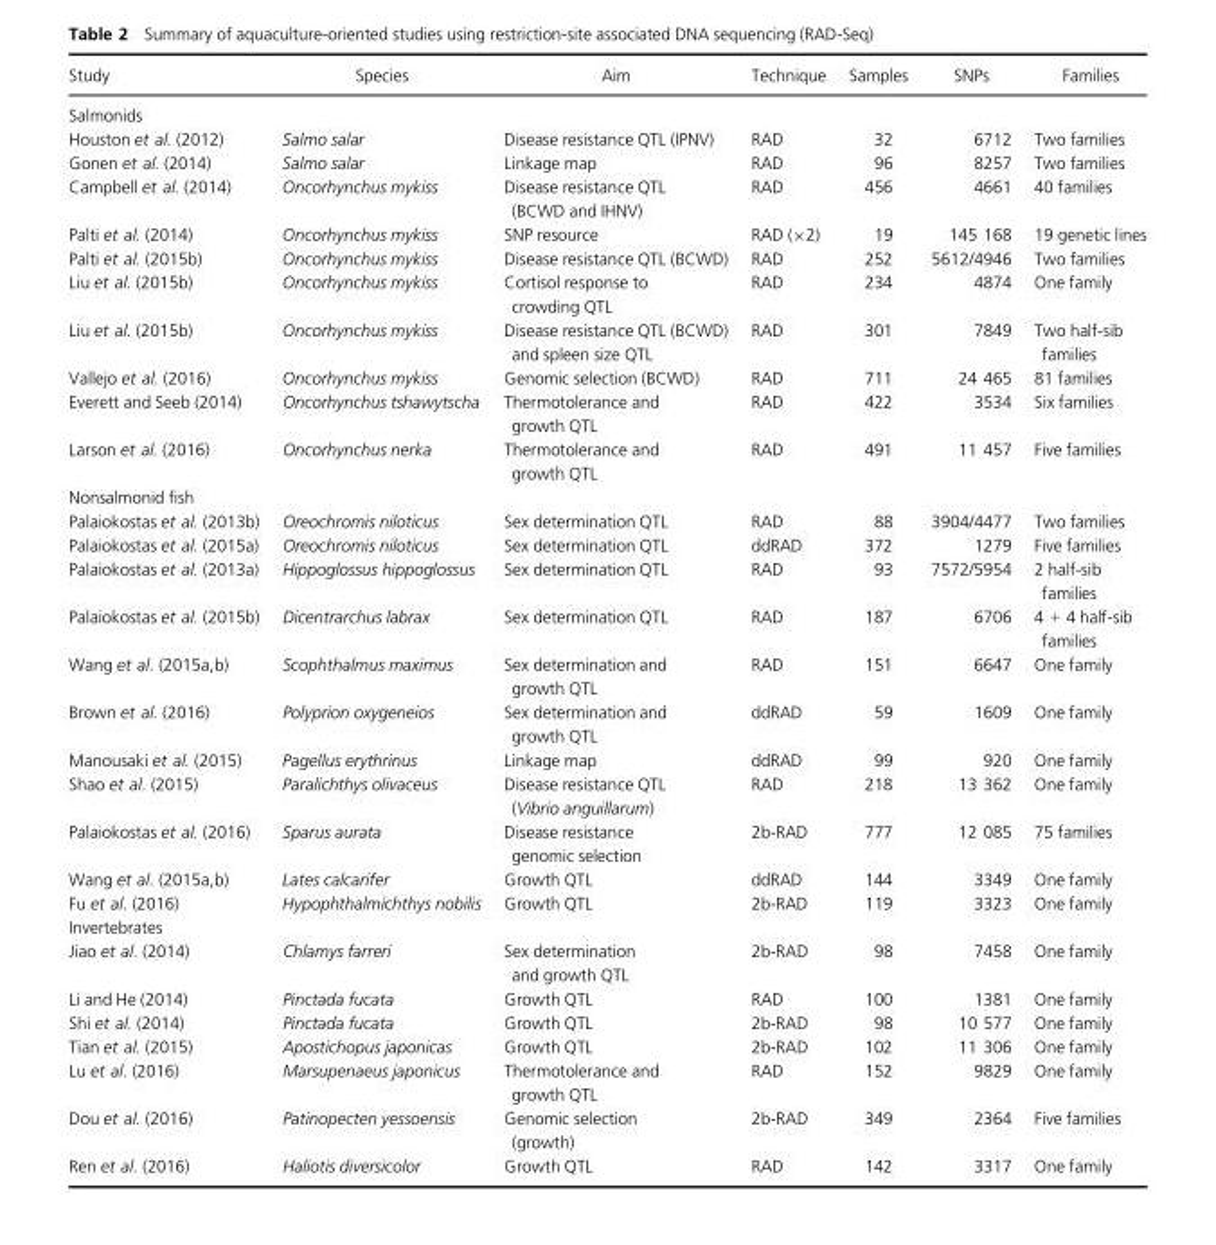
<table><thead><tr><td>Study</td><td>Species</td><td>Aim</td><td>Technique</td><td>Samples</td><td>SNPs</td><td>Families</td></tr></thead><tbody><tr><td colspan="7">Salmonids</td></tr><tr><td>Houston et al. (2012)</td><td>Salmo salar</td><td>Disease resistance QTL (IPNV)</td><td>RAD</td><td>32</td><td>6712</td><td>Two families</td></tr><tr><td>Gonen et al. (2014)</td><td>Salmo salar</td><td>Linkage map</td><td>RAD</td><td>96</td><td>8257</td><td>Two families</td></tr><tr><td>Campbell et al. (2014)</td><td>Oncorhynchus mykiss</td><td>Disease resistance QTL (BCWD and IHNV)</td><td>RAD</td><td>456</td><td>4661</td><td>40 families</td></tr><tr><td>Palti et al. (2014)</td><td>Oncorhynchus mykiss</td><td>SNP resource</td><td>RAD (×2)</td><td>19</td><td>145 168</td><td>19 genetic lines</td></tr><tr><td>Palti et al. (2015b)</td><td>Oncorhynchus mykiss</td><td>Disease resistance QTL (BCWD)</td><td>RAD</td><td>252</td><td>5612/4946</td><td>Two families</td></tr><tr><td>Liu et al. (2015b)</td><td>Oncorhynchus mykiss</td><td>Cortisol response to crowding QTL</td><td>RAD</td><td>234</td><td>4874</td><td>One family</td></tr><tr><td>Liu et al. (2015b)</td><td>Oncorhynchus mykiss</td><td>Disease resistance QTL (BCWD) and spleen size QTL</td><td>RAD</td><td>301</td><td>7849</td><td>Two half-sib families</td></tr><tr><td>Vallejo et al. (2016)</td><td>Oncorhynchus mykiss</td><td>Genomic selection (BCWD)</td><td>RAD</td><td>711</td><td>24 465</td><td>81 families</td></tr><tr><td>Everett and Seeb (2014)</td><td>Oncorhynchus tshawytscha</td><td>Thermotolerance and growth QTL</td><td>RAD</td><td>422</td><td>3534</td><td>Six families</td></tr><tr><td>Larson et al. (2016)</td><td>Oncorhynchus nerka</td><td>Thermotolerance and growth QTL</td><td>RAD</td><td>491</td><td>11 457</td><td>Five families</td></tr><tr><td colspan="7">Nonsalmonid fish</td></tr><tr><td>Palaiokostas et al. (2013b)</td><td>Oreochromis niloticus</td><td>Sex determination QTL</td><td>RAD</td><td>88</td><td>3904/4477</td><td>Two families</td></tr><tr><td>Palaiokostas et al. (2015a)</td><td>Oreochromis niloticus</td><td>Sex determination QTL</td><td>ddRAD</td><td>372</td><td>1279</td><td>Five families</td></tr><tr><td>Palaiokostas et al. (2013a)</td><td>Hippoglossus hippoglossus</td><td>Sex determination QTL</td><td>RAD</td><td>93</td><td>7572/5954</td><td>2 half-sib families</td></tr><tr><td>Palaiokostas et al. (2015b)</td><td>Dicentrarchus labrax</td><td>Sex determination QTL</td><td>RAD</td><td>187</td><td>6706</td><td>4 + 4 half-sib families</td></tr><tr><td>Wang et al. (2015a,b)</td><td>Scophthalmus maximus</td><td>Sex determination and growth QTL</td><td>RAD</td><td>151</td><td>6647</td><td>One family</td></tr><tr><td>Brown et al. (2016)</td><td>Polyprion oxygeneios</td><td>Sex determination and growth QTL</td><td>ddRAD</td><td>59</td><td>1609</td><td>One family</td></tr><tr><td>Manousaki et al. (2015)</td><td>Pagellus erythrinus</td><td>Linkage map</td><td>ddRAD</td><td>99</td><td>920</td><td>One family</td></tr><tr><td>Shao et al. (2015)</td><td>Paralichthys olivaceus</td><td>Disease resistance QTL (Vibrio anguillarum)</td><td>RAD</td><td>218</td><td>13 362</td><td>One family</td></tr><tr><td>Palaiokostas et al. (2016)</td><td>Sparus aurata</td><td>Disease resistance genomic selection</td><td>2b-RAD</td><td>777</td><td>12 085</td><td>75 families</td></tr><tr><td>Wang et al. (2015a,b)</td><td>Lates calcarifer</td><td>Growth QTL</td><td>ddRAD</td><td>144</td><td>3349</td><td>One family</td></tr><tr><td>Fu et al. (2016)</td><td>Hypophthalmichthys nobilis</td><td>Growth QTL</td><td>2b-RAD</td><td>119</td><td>3323</td><td>One family</td></tr><tr><td colspan="7">Invertebrates</td></tr><tr><td>Jiao et al. (2014)</td><td>Chlamys farreri</td><td>Sex determination and growth QTL</td><td>2b-RAD</td><td>98</td><td>7458</td><td>One family</td></tr><tr><td>Li and He (2014)</td><td>Pinctada fucata</td><td>Growth QTL</td><td>RAD</td><td>100</td><td>1381</td><td>One family</td></tr><tr><td>Shi et al. (2014)</td><td>Pinctada fucata</td><td>Growth QTL</td><td>2b-RAD</td><td>98</td><td>10 577</td><td>One family</td></tr><tr><td>Tian et al. (2015)</td><td>Apostichopus japonicas</td><td>Growth QTL</td><td>2b-RAD</td><td>102</td><td>11 306</td><td>One family</td></tr><tr><td>Lu et al. (2016)</td><td>Marsupenaeus japonicus</td><td>Thermotolerance and growth QTL</td><td>RAD</td><td>152</td><td>9829</td><td>One family</td></tr><tr><td>Dou et al. (2016)</td><td>Patinopecten yessoensis</td><td>Genomic selection (growth)</td><td>2b-RAD</td><td>349</td><td>2364</td><td>Five families</td></tr><tr><td>Ren et al. (2016)</td><td>Haliotis diversicolor</td><td>Growth QTL</td><td>RAD</td><td>142</td><td>3317</td><td>One family</td></tr></tbody></table>